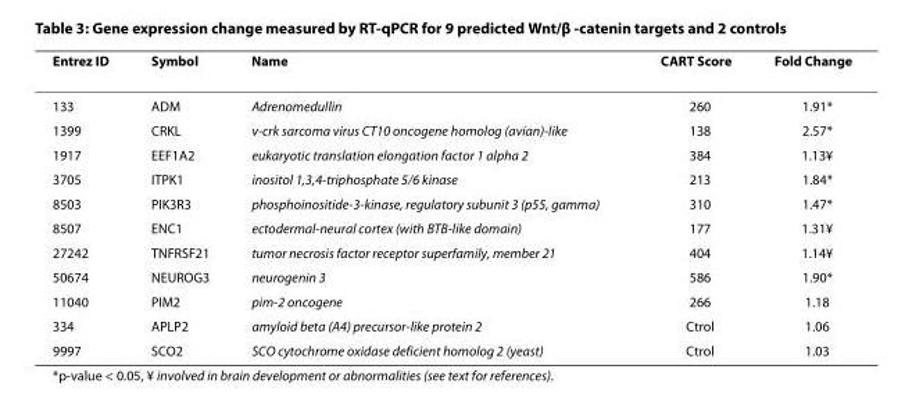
<table><thead><tr><td>Entrez ID</td><td>Symbol</td><td>Name</td><td>CART Score</td><td>Fold Change</td></tr></thead><tbody><tr><td>133</td><td>ADM</td><td>Adrenomedullin</td><td>260</td><td>1.91*</td></tr><tr><td>1399</td><td>CRKL</td><td>v-crk sarcoma virus CT10 oncogene homolog (avian)-like</td><td>138</td><td>2.57*</td></tr><tr><td>1917</td><td>EEF1A2</td><td>eukaryotic translation elongation factor 1 alpha 2</td><td>384</td><td>1.13¥</td></tr><tr><td>3705</td><td>ITPK1</td><td>inositol 1,3,4-triphosphate 5/6 kinase</td><td>213</td><td>1.84*</td></tr><tr><td>8503</td><td>PIK3R3</td><td>phosphoinositide-3-kinase, regulatory subunit 3 (p55, gamma)</td><td>310</td><td>1.47*</td></tr><tr><td>8507</td><td>ENC1</td><td>ectodermal-neural cortex (with BTB-like domain)</td><td>177</td><td>1.31¥</td></tr><tr><td>27242</td><td>TNFRSF21</td><td>tumor necrosis factor receptor superfamily, member 21</td><td>404</td><td>1.14¥</td></tr><tr><td>50674</td><td>NEUROG3</td><td>neurogenin 3</td><td>586</td><td>1.90*</td></tr><tr><td>11040</td><td>PIM2</td><td>pim-2 oncogene</td><td>266</td><td>1.18</td></tr><tr><td>334</td><td>APLP2</td><td>amyloid beta (A4) precursor-like protein 2</td><td>Ctrol</td><td>1.06</td></tr><tr><td>9997</td><td>SCO2</td><td>SCO cytochrome oxidase deficient homolog 2 (yeast)</td><td>Ctrol</td><td>1.03</td></tr></tbody></table>